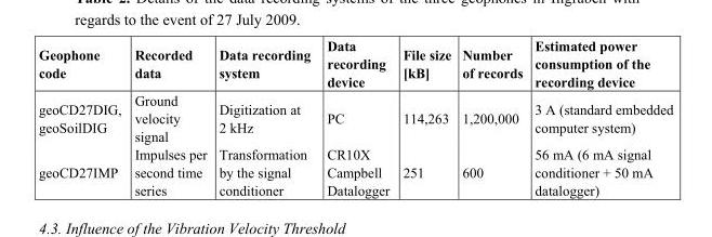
<table><thead><tr><td>Geophone code</td><td>Recorded data</td><td>Data recording system</td><td>Data recording device</td><td>File size [kB]</td><td>Number of records</td><td>Estimated power consumption of the recording device</td></tr></thead><tbody><tr><td>geoCD27DIG, geoSoilDIG</td><td>Ground velocity signal</td><td>Digitization at 2 kHz</td><td>PC</td><td>114,263</td><td>1,200,000</td><td>3 A (standard embedded computer system)</td></tr><tr><td>geoCD27IMP</td><td>Impulses per second time series</td><td>Transformation by the signal conditioner</td><td>CR10X Campbell Datalogger</td><td>251</td><td>600</td><td>56 mA (6 mA signal conditioner + 50 mA datalogger)</td></tr></tbody></table>